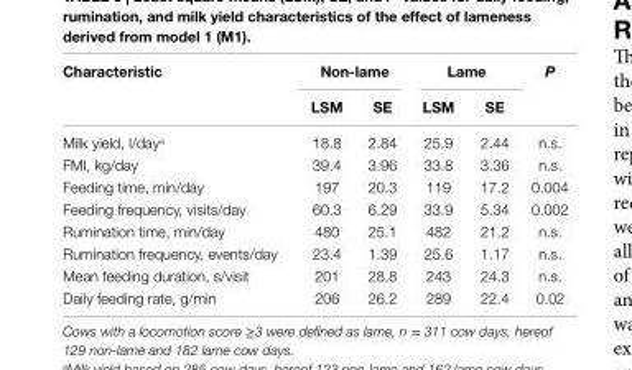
<table><thead><tr><td rowspan="2">characteristic</td><td colspan="2">non-lame</td><td colspan="2">lame</td><td rowspan="2">P</td></tr><tr><td>lsM</td><td>se</td><td>lsM</td><td>se</td></tr></thead><tbody><tr><td>Milk yield, l/day<sup>a</sup></td><td>18.8</td><td>2.84</td><td>25.9</td><td>2.44</td><td>n.s.</td></tr><tr><td>FMI, kg/day</td><td>39.4</td><td>3.96</td><td>33.8</td><td>3.36</td><td>n.s.</td></tr><tr><td>Feeding time, min/day</td><td>197</td><td>20.3</td><td>119</td><td>17.2</td><td>0.004</td></tr><tr><td>Feeding frequency, visits/day</td><td>60.3</td><td>6.29</td><td>33.9</td><td>5.34</td><td>0.002</td></tr><tr><td>Rumination time, min/day</td><td>480</td><td>25.1</td><td>482</td><td>21.2</td><td>n.s.</td></tr><tr><td>Rumination frequency, events/day</td><td>23.4</td><td>1.39</td><td>25.6</td><td>1.17</td><td>n.s.</td></tr><tr><td>Mean feeding duration, s/visit</td><td>201</td><td>28.8</td><td>243</td><td>24.3</td><td>n.s.</td></tr><tr><td>Daily feeding rate, g/min</td><td>206</td><td>26.2</td><td>289</td><td>22.4</td><td>0.02</td></tr></tbody></table>